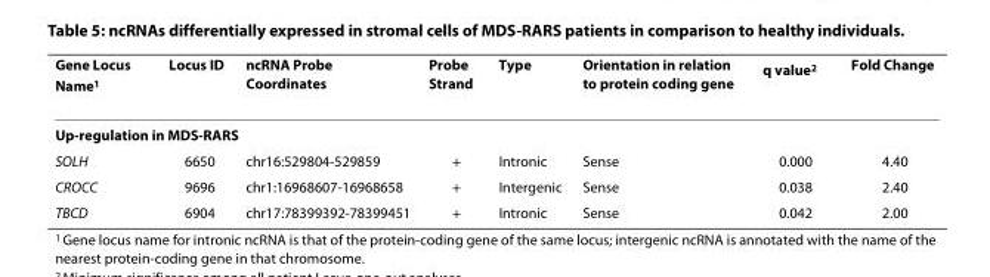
<table><thead><tr><td>Gene Locus Name<sup>1</sup></td><td>Locus ID</td><td>ncRNA Probe Coordinates</td><td>Probe Strand</td><td>Type</td><td>Orientation in relation to protein coding gene</td><td>q value<sup>2</sup></td><td>Fold Change</td></tr></thead><tbody><tr><td colspan="8">Up-regulation in MDS-RARS</td></tr><tr><td>SOLH</td><td>6650</td><td>chr16:529804-529859</td><td>+</td><td>Intronic</td><td>Sense</td><td>0.000</td><td>4.40</td></tr><tr><td>CROCC</td><td>9696</td><td>chr1:16968607-16968658</td><td>+</td><td>Intergenic</td><td>Sense</td><td>0.038</td><td>2.40</td></tr><tr><td>TBCD</td><td>6904</td><td>chr17:78399392-78399451</td><td>+</td><td>Intronic</td><td>Sense</td><td>0.042</td><td>2.00</td></tr></tbody></table>